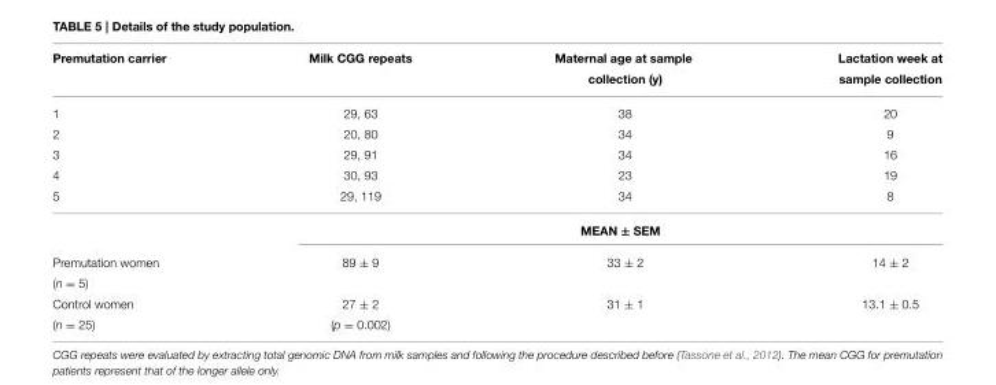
<table><thead><tr><td>Premutation carrier</td><td>Milk CGG repeats</td><td>Maternal age at sample collection (y)</td><td>Lactation week at sample collection</td></tr></thead><tbody><tr><td>1</td><td>29, 63</td><td>38</td><td>20</td></tr><tr><td>2</td><td>20, 80</td><td>34</td><td>9</td></tr><tr><td>3</td><td>29, 91</td><td>34</td><td>16</td></tr><tr><td>4</td><td>30, 93</td><td>23</td><td>19</td></tr><tr><td rowspan="2">5</td><td>29, 119</td><td>34</td><td>8</td></tr><tr><td colspan="3">MEAN ± SEM</td></tr><tr><td>Premutation women</td><td>89 ± 9</td><td>33 ± 2</td><td>14 ± 2</td></tr><tr><td colspan="4">(n = 5)</td></tr><tr><td>Control women</td><td>27 ± 2</td><td>31 ± 1</td><td>13.1 ± 0.5</td></tr><tr><td>(n = 25)</td><td>(p = 0.002)</td><td></td><td></td></tr></tbody></table>